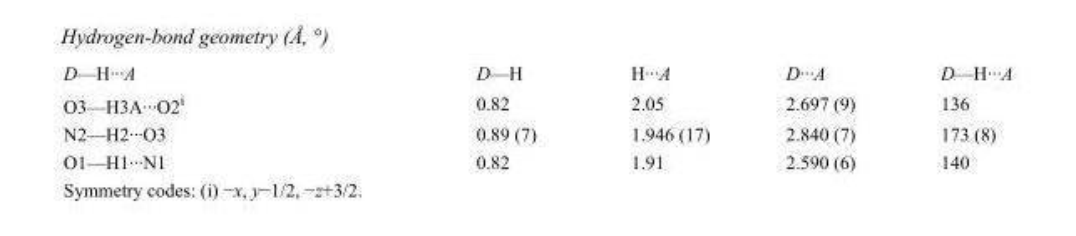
<table><tbody><tr><td>D—H···A</td><td>D—H</td><td>H···A</td><td>D···A</td><td>D—H···A</td></tr><tr><td>O3—H3A···O2<sup>i</sup></td><td>0.82</td><td>2.05</td><td>2.697 (9)</td><td>136</td></tr><tr><td>N2—H2···O3</td><td>0.89 (7)</td><td>1.946 (17)</td><td>2.840 (7)</td><td>173 (8)</td></tr><tr><td>O1—H1···N1</td><td>0.82</td><td>1.91</td><td>2.590 (6)</td><td>140</td></tr></tbody></table>